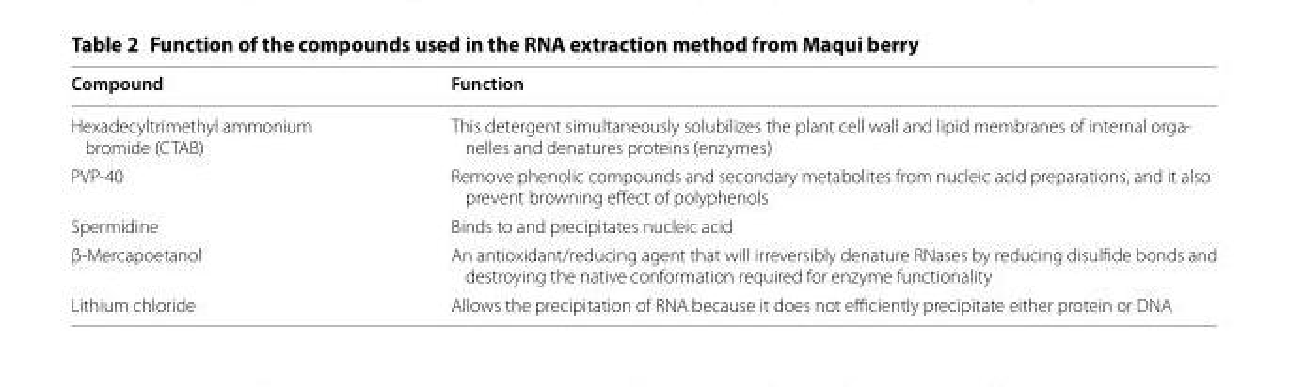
<table><thead><tr><td>Compound</td><td>Function</td></tr></thead><tbody><tr><td>Hexadecyltrimethyl ammonium bromide (CTAB)</td><td>This detergent simultaneously solubilizes the plant cell wall and lipid membranes of internal orga- nelles and denatures proteins (enzymes)</td></tr><tr><td>PVP-40</td><td>Remove phenolic compounds and secondary metabolites from nucleic acid preparations, and it also prevent browning effect of polyphenols</td></tr><tr><td>Spermidine</td><td>Binds to and precipitates nucleic acid</td></tr><tr><td>β-Mercapoetanol</td><td>An antioxidant/reducing agent that will irreversibly denature RNases by reducing disulfide bonds and destroying the native conformation required for enzyme functionality</td></tr><tr><td>Lithium chloride</td><td>Allows the precipitation of RNA because it does not efficiently precipitate either protein or DNA</td></tr></tbody></table>